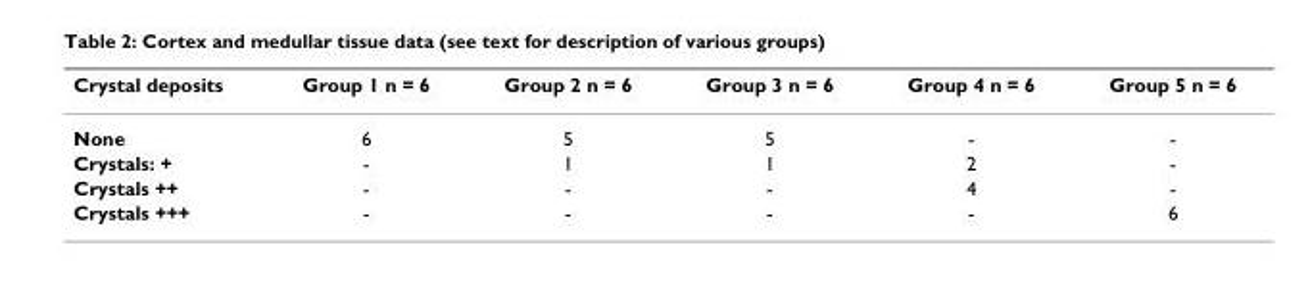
<table><thead><tr><td>Crystal deposits</td><td>Group 1 n = 6</td><td>Group 2 n = 6</td><td>Group 3 n = 6</td><td>Group 4 n = 6</td><td>Group 5 n = 6</td></tr></thead><tbody><tr><td>None</td><td>6</td><td>5</td><td>5</td><td>-</td><td>-</td></tr><tr><td>Crystals: +</td><td>-</td><td>1</td><td>1</td><td>2</td><td>-</td></tr><tr><td>Crystals ++</td><td>-</td><td>-</td><td>-</td><td>4</td><td>-</td></tr><tr><td>Crystals +++</td><td>-</td><td>-</td><td>-</td><td>-</td><td>6</td></tr></tbody></table>